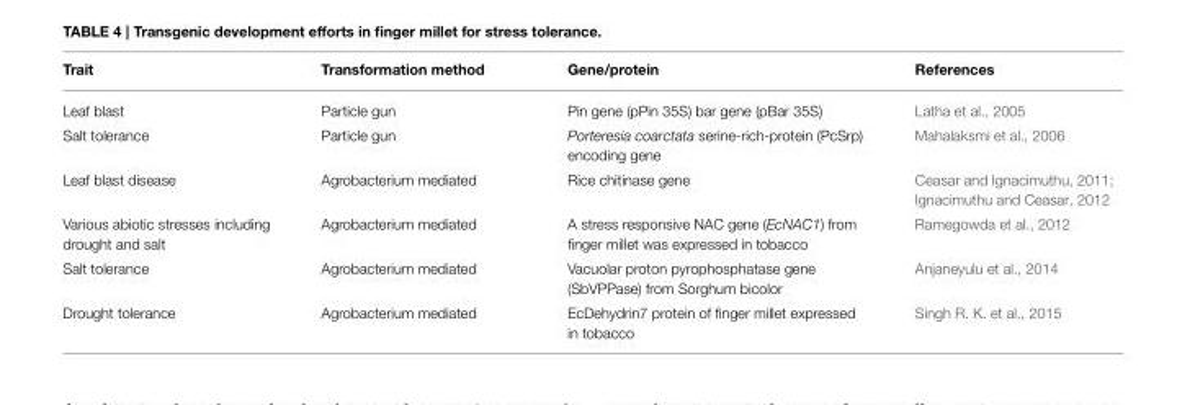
<table><thead><tr><td>Trait</td><td>Transformation method</td><td>Gene/protein</td><td>References</td></tr></thead><tbody><tr><td>Leaf blast</td><td>Particle gun</td><td>Pin gene (pPin 35S) bar gene (pBar 35S)</td><td>Latha et al., 2005</td></tr><tr><td>Salt tolerance</td><td>Particle gun</td><td>Porteresia coarctata serine-rich-protein (PcSrp) encoding gene</td><td>Mahalaksmi et al., 2006</td></tr><tr><td>Leaf blast disease</td><td>Agrobacterium mediated</td><td>Rice chitinase gene</td><td>Ceasar and Ignacimuthu, 2011; Ignacimuthu and Ceasar, 2012</td></tr><tr><td>Various abiotic stresses including drought and salt</td><td>Agrobacterium mediated</td><td>A stress responsive NAC gene (EcNAC1) from finger millet was expressed in tobacco</td><td>Ramegowda et al., 2012</td></tr><tr><td>Salt tolerance</td><td>Agrobacterium mediated</td><td>Vacuolar proton pyrophosphatase gene (SbVPPase) from Sorghum bicolor</td><td>Anjaneyulu et al., 2014</td></tr><tr><td>Drought tolerance</td><td>Agrobacterium mediated</td><td>EcDehydrin7 protein of finger millet expressed in tobacco</td><td>Singh R. K. et al., 2015</td></tr></tbody></table>